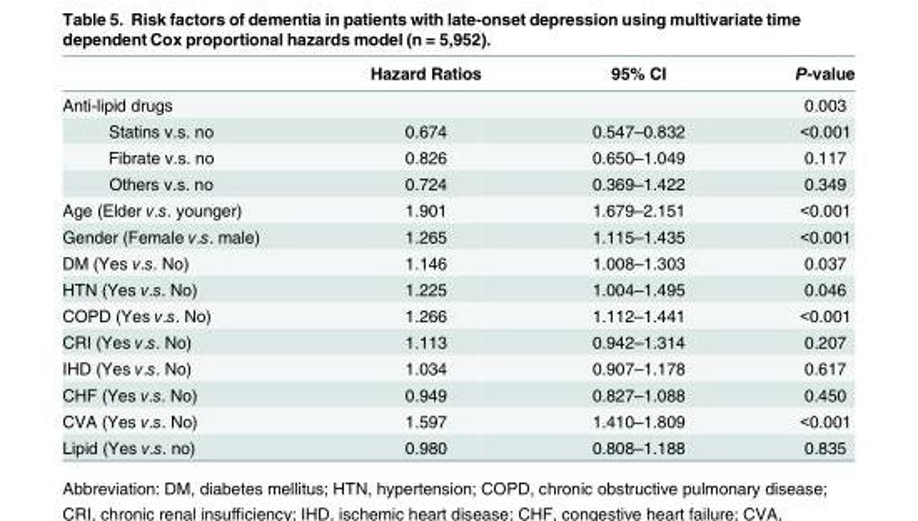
<table><thead><tr><td></td><td>Hazard Ratios</td><td>95% CI</td><td>P-value</td></tr></thead><tbody><tr><td>Anti-lipid drugs</td><td></td><td></td><td>0.003</td></tr><tr><td>Statins v.s. no</td><td>0.674</td><td>0.547–0.832</td><td>&lt;0.001</td></tr><tr><td>Fibrate v.s. no</td><td>0.826</td><td>0.650–1.049</td><td>0.117</td></tr><tr><td>Others v.s. no</td><td>0.724</td><td>0.369–1.422</td><td>0.349</td></tr><tr><td>Age (Elder v.s. younger)</td><td>1.901</td><td>1.679–2.151</td><td>&lt;0.001</td></tr><tr><td>Gender (Female v.s. male)</td><td>1.265</td><td>1.115–1.435</td><td>&lt;0.001</td></tr><tr><td>DM (Yes v.s. No)</td><td>1.146</td><td>1.008–1.303</td><td>0.037</td></tr><tr><td>HTN (Yes v.s. No)</td><td>1.225</td><td>1.004–1.495</td><td>0.046</td></tr><tr><td>COPD (Yes v.s. No)</td><td>1.266</td><td>1.112–1.441</td><td>&lt;0.001</td></tr><tr><td>CRI (Yes v.s. No)</td><td>1.113</td><td>0.942–1.314</td><td>0.207</td></tr><tr><td>IHD (Yes v.s. No)</td><td>1.034</td><td>0.907–1.178</td><td>0.617</td></tr><tr><td>CHF (Yes v.s. No)</td><td>0.949</td><td>0.827–1.088</td><td>0.450</td></tr><tr><td>CVA (Yes v.s. No)</td><td>1.597</td><td>1.410–1.809</td><td>&lt;0.001</td></tr><tr><td>Lipid (Yes v.s. no)</td><td>0.980</td><td>0.808–1.188</td><td>0.835</td></tr></tbody></table>